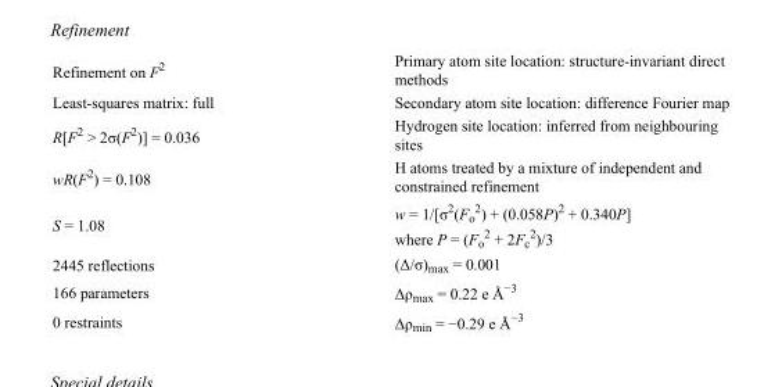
<table><tbody><tr><td>Refinement on F<sup>2</sup></td><td>Primary atom site location: structure-invariant direct methods</td></tr><tr><td>Least-squares matrix: full</td><td>Secondary atom site location: difference Fourier map</td></tr><tr><td>R[F<sup>2</sup> &gt; 2σ(F<sup>2</sup>)] = 0.036</td><td>Hydrogen site location: inferred from neighbouring sites</td></tr><tr><td>wR(F<sup>2</sup>) = 0.108</td><td>H atoms treated by a mixture of independent and constrained refinement</td></tr><tr><td>S = 1.08</td><td>w = 1/[σ<sup>2</sup>(F<sub>o</sub> <sup>2</sup>) + (0.058P)<sup>2</sup> + 0.340P] where P = (F<sub>o</sub> <sup>2</sup> + 2F<sub>c</sub> <sup>2</sup>)/3</td></tr><tr><td>2445 reflections</td><td>(Δ/σ)<sub>max</sub> = 0.001</td></tr><tr><td>166 parameters</td><td>Δρ<sub>max</sub> = 0.22 e Å<sup>−3</sup></td></tr><tr><td>0 restraints</td><td>Δρ<sub>min</sub> = −0.29 e Å<sup>−3</sup></td></tr></tbody></table>